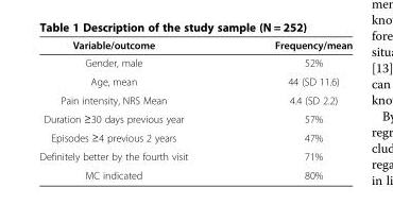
<table><thead><tr><td>Variable/outcome</td><td>Frequency/mean</td></tr></thead><tbody><tr><td>Gender, male</td><td>52%</td></tr><tr><td>Age, mean</td><td>44 (SD 11.6)</td></tr><tr><td>Pain intensity, NRS Mean</td><td>4.4 (SD 2.2)</td></tr><tr><td>Duration ≥30 days previous year</td><td>57%</td></tr><tr><td>Episodes ≥4 previous 2 years</td><td>47%</td></tr><tr><td>Definitely better by the fourth visit</td><td>71%</td></tr><tr><td>MC indicated</td><td>80%</td></tr></tbody></table>